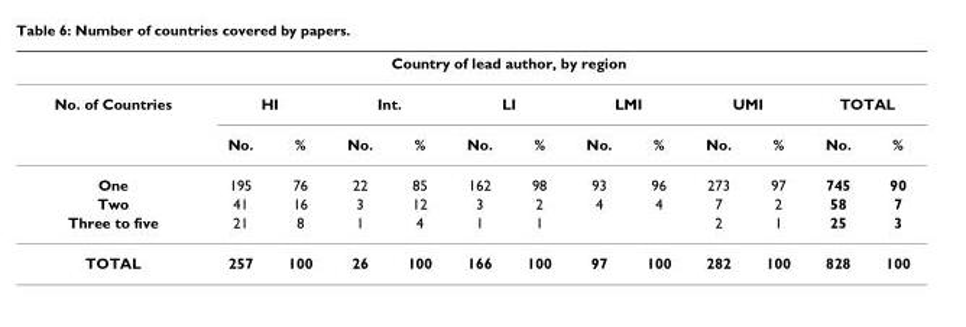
<table><thead><tr><td rowspan="3">No. of Countries</td><td colspan="10">Country of lead author, by region</td><td></td><td></td></tr><tr><td colspan="2">HI</td><td colspan="2">Int.</td><td colspan="2">LI</td><td colspan="2">LMI</td><td colspan="2">UMI</td><td colspan="2">TOTAL</td></tr><tr><td>No.</td><td>%</td><td>No.</td><td>%</td><td>No.</td><td>%</td><td>No.</td><td>%</td><td>No.</td><td>%</td><td>No.</td><td>%</td></tr></thead><tbody><tr><td>One</td><td>195</td><td>76</td><td>22</td><td>85</td><td>162</td><td>98</td><td>93</td><td>96</td><td>273</td><td>97</td><td>745</td><td>90</td></tr><tr><td>Two</td><td>41</td><td>16</td><td>3</td><td>12</td><td>3</td><td>2</td><td>4</td><td>4</td><td>7</td><td>2</td><td>58</td><td>7</td></tr><tr><td>Three to five</td><td>21</td><td>8</td><td>1</td><td>4</td><td>1</td><td>1</td><td></td><td></td><td>2</td><td>1</td><td>25</td><td>3</td></tr><tr><td>TOTAL</td><td>257</td><td>100</td><td>26</td><td>100</td><td>166</td><td>100</td><td>97</td><td>100</td><td>282</td><td>100</td><td>828</td><td>100</td></tr></tbody></table>